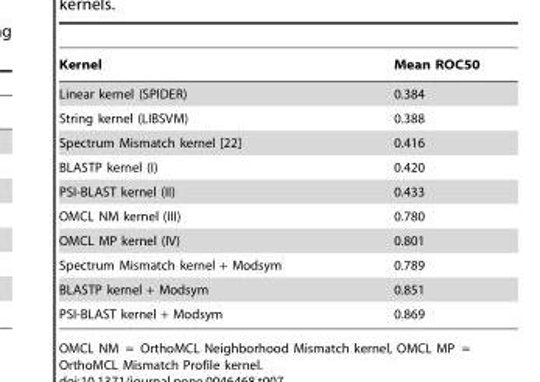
<table><thead><tr><td>Kernel</td><td>Mean ROC50</td></tr></thead><tbody><tr><td>Linear kernel (SPIDER)</td><td>0.384</td></tr><tr><td>String kernel (LIBSVM)</td><td>0.388</td></tr><tr><td>Spectrum Mismatch kernel [22]</td><td>0.416</td></tr><tr><td>BLASTP kernel (I)</td><td>0.420</td></tr><tr><td>PSI-BLAST kernel (II)</td><td>0.433</td></tr><tr><td>OMCL NM kernel (III)</td><td>0.780</td></tr><tr><td>OMCL MP kernel (IV)</td><td>0.801</td></tr><tr><td>Spectrum Mismatch kernel + Modsym</td><td>0.789</td></tr><tr><td>BLASTP kernel + Modsym</td><td>0.851</td></tr><tr><td>PSI-BLAST kernel + Modsym</td><td>0.869</td></tr></tbody></table>